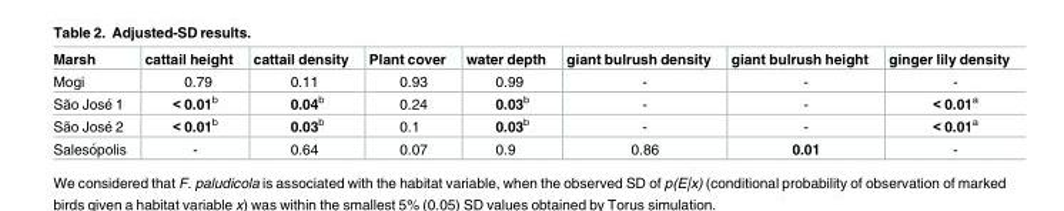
<table><thead><tr><td>Marsh</td><td>cattail height</td><td>cattail density</td><td>Plant cover</td><td>water depth</td><td>giant bulrush density</td><td>giant bulrush height</td><td>ginger lily density</td></tr></thead><tbody><tr><td>Mogi</td><td>0.79</td><td>0.11</td><td>0.93</td><td>0.99</td><td>-</td><td>-</td><td>-</td></tr><tr><td>São Jose´ 1</td><td>&lt; 0.01<sup>b</sup></td><td>0.04<sup>b</sup></td><td>0.24</td><td>0.03<sup>b</sup></td><td>-</td><td>-</td><td>&lt; 0.01<sup>a</sup></td></tr><tr><td>São Jose´ 2</td><td>&lt; 0.01<sup>b</sup></td><td>0.03<sup>b</sup></td><td>0.1</td><td>0.03<sup>b</sup></td><td>-</td><td>-</td><td>&lt; 0.01<sup>a</sup></td></tr><tr><td>Saleso´polis</td><td>-</td><td>0.64</td><td>0.07</td><td>0.9</td><td>0.86</td><td>0.01</td><td>-</td></tr></tbody></table>